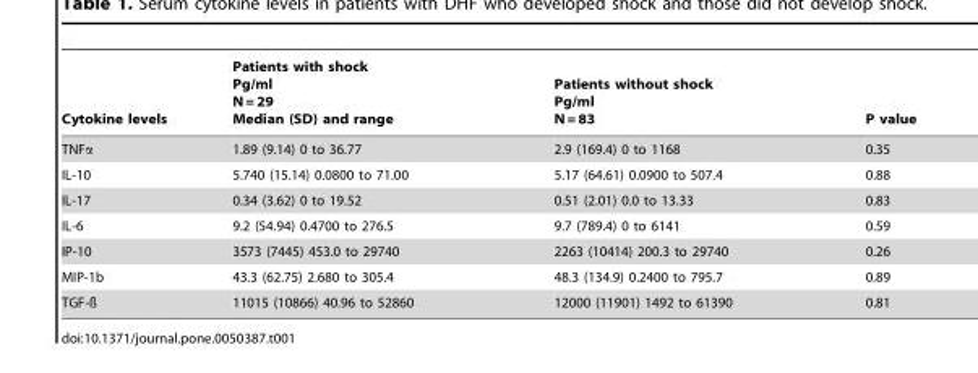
<table><thead><tr><td>Cytokine levels</td><td>Patients with shock Pg/ml N = 29 Median (SD) and range</td><td>Patients without shock Pg/ml N = 83</td><td>P value</td></tr></thead><tbody><tr><td>TNFα</td><td>1.89 (9.14) 0 to 36.77</td><td>2.9 (169.4) 0 to 1168</td><td>0.35</td></tr><tr><td>IL-10</td><td>5.740 (15.14) 0.0800 to 71.00</td><td>5.17 (64.61) 0.0900 to 507.4</td><td>0.88</td></tr><tr><td>IL-17</td><td>0.34 (3.62) 0 to 19.52</td><td>0.51 (2.01) 0.0 to 13.33</td><td>0.83</td></tr><tr><td>IL-6</td><td>9.2 (54.94) 0.4700 to 276.5</td><td>9.7 (789.4) 0 to 6141</td><td>0.59</td></tr><tr><td>IP-10</td><td>3573 (7445) 453.0 to 29740</td><td>2263 (10414) 200.3 to 29740</td><td>0.26</td></tr><tr><td>MIP-1b</td><td>43.3 (62.75) 2.680 to 305.4</td><td>48.3 (134.9) 0.2400 to 795.7</td><td>0.89</td></tr><tr><td>TGF-ß</td><td>11015 (10866) 40.96 to 52860</td><td>12000 (11901) 1492 to 61390</td><td>0.81</td></tr></tbody></table>